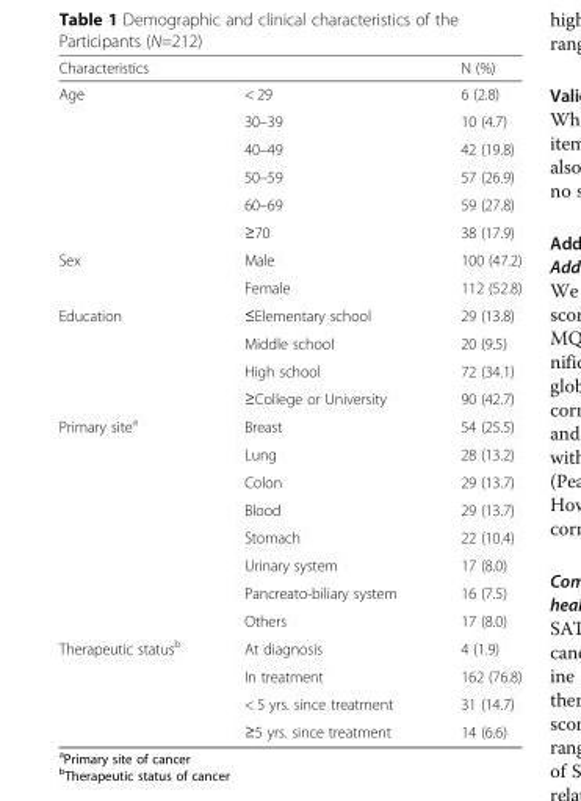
<table><thead><tr><td>Characteristics</td><td></td><td>N (%)</td></tr></thead><tbody><tr><td rowspan="6">Age</td><td>&lt; 29</td><td>6 (2.8)</td></tr><tr><td>30–39</td><td>10 (4.7)</td></tr><tr><td>40–49</td><td>42 (19.8)</td></tr><tr><td>50–59</td><td>57 (26.9)</td></tr><tr><td>60–69</td><td>59 (27.8)</td></tr><tr><td>≥70</td><td>38 (17.9)</td></tr><tr><td rowspan="2">Sex</td><td>Male</td><td>100 (47.2)</td></tr><tr><td>Female</td><td>112 (52.8)</td></tr><tr><td rowspan="4">Education</td><td>≤Elementary school</td><td>29 (13.8)</td></tr><tr><td>Middle school</td><td>20 (9.5)</td></tr><tr><td>High school</td><td>72 (34.1)</td></tr><tr><td>≥College or University</td><td>90 (42.7)</td></tr><tr><td rowspan="8">Primary site<sup>a</sup></td><td>Breast</td><td>54 (25.5)</td></tr><tr><td>Lung</td><td>28 (13.2)</td></tr><tr><td>Colon</td><td>29 (13.7)</td></tr><tr><td>Blood</td><td>29 (13.7)</td></tr><tr><td>Stomach</td><td>22 (10.4)</td></tr><tr><td>Urinary system</td><td>17 (8.0)</td></tr><tr><td>Pancreato-biliary system</td><td>16 (7.5)</td></tr><tr><td>Others</td><td>17 (8.0)</td></tr><tr><td rowspan="4">Therapeutic status<sup>b</sup></td><td>At diagnosis</td><td>4 (1.9)</td></tr><tr><td>In treatment</td><td>162 (76.8)</td></tr><tr><td>&lt; 5 yrs. since treatment</td><td>31 (14.7)</td></tr><tr><td>≥5 yrs. since treatment</td><td>14 (6.6)</td></tr></tbody></table>